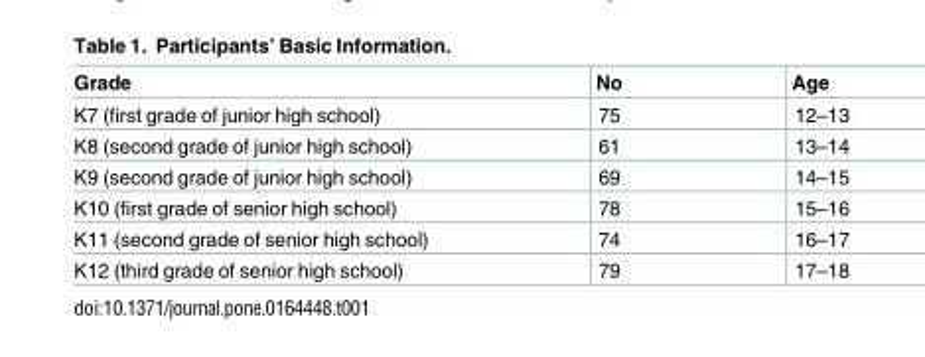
<table><thead><tr><td>Grade</td><td>No</td><td>Age</td></tr></thead><tbody><tr><td>K7 (first grade of junior high school)</td><td>75</td><td>12–13</td></tr><tr><td>K8 (second grade of junior high school)</td><td>61</td><td>13–14</td></tr><tr><td>K9 (second grade of junior high school)</td><td>69</td><td>14–15</td></tr><tr><td>K10 (first grade of senior high school)</td><td>78</td><td>15–16</td></tr><tr><td>K11 (second grade of senior high school)</td><td>74</td><td>16–17</td></tr><tr><td>K12 (third grade of senior high school)</td><td>79</td><td>17–18</td></tr></tbody></table>